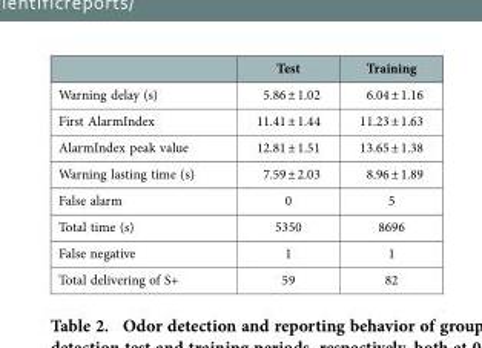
<table><thead><tr><td></td><td>Test</td><td>Training</td></tr></thead><tbody><tr><td>Warning delay (s)</td><td>5.86 ± 1.02</td><td>6.04 ± 1.16</td></tr><tr><td>First AlarmIndex</td><td>11.41 ± 1.44</td><td>11.23 ± 1.63</td></tr><tr><td>AlarmIndex peak value</td><td>12.81 ± 1.51</td><td>13.65 ± 1.38</td></tr><tr><td>Warning lasting time (s)</td><td>7.59 ± 2.03</td><td>8.96 ± 1.89</td></tr><tr><td>False alarm</td><td>0</td><td>5</td></tr><tr><td>Total time (s)</td><td>5350</td><td>8696</td></tr><tr><td>False negative</td><td>1</td><td>1</td></tr><tr><td>Total delivering of S+</td><td>59</td><td>82</td></tr></tbody></table>